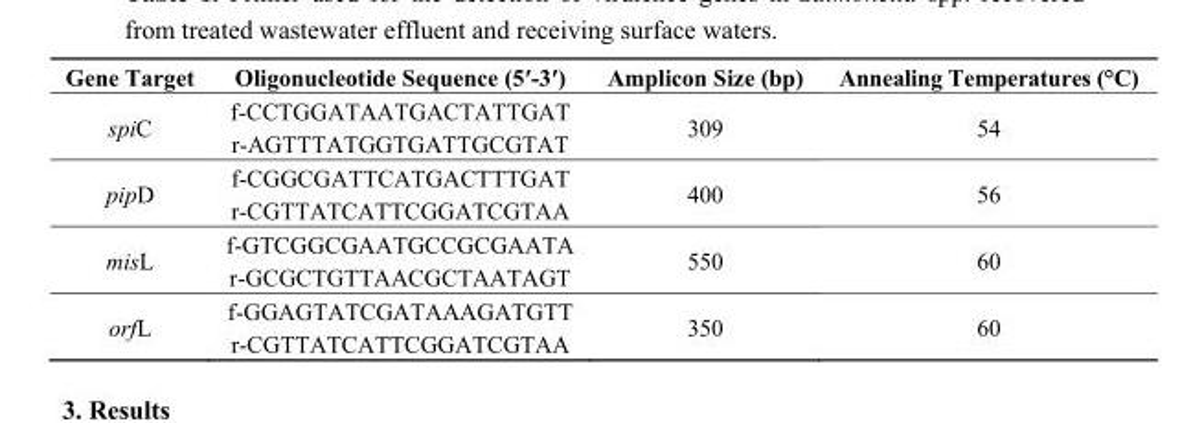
<table><thead><tr><td>Gene Target</td><td>Oligonucleotide Sequence (5ʹ-3ʹ)</td><td>Amplicon Size (bp)</td><td>Annealing Temperatures (°C)</td></tr></thead><tbody><tr><td rowspan="2">spiC</td><td>f-CCTGGATAATGACTATTGAT</td><td rowspan="2">309</td><td rowspan="2">54</td></tr><tr><td>r-AGTTTATGGTGATTGCGTAT</td></tr><tr><td rowspan="2">pipD</td><td>f-CGGCGATTCATGACTTTGAT</td><td rowspan="2">400</td><td rowspan="2">56</td></tr><tr><td>r-CGTTATCATTCGGATCGTAA</td></tr><tr><td rowspan="2">misL</td><td>f-GTCGGCGAATGCCGCGAATA</td><td rowspan="2">550</td><td rowspan="2">60</td></tr><tr><td>r-GCGCTGTTAACGCTAATAGT</td></tr><tr><td rowspan="2">orfL</td><td>f-GGAGTATCGATAAAGATGTT</td><td rowspan="2">350</td><td rowspan="2">60</td></tr><tr><td>r-CGTTATCATTCGGATCGTAA</td></tr></tbody></table>